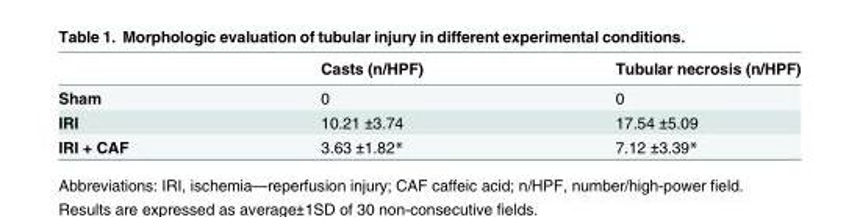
<table><thead><tr><td></td><td>Casts (n/HPF)</td><td>Tubular necrosis (n/HPF)</td></tr></thead><tbody><tr><td>Sham</td><td>0</td><td>0</td></tr><tr><td>IRI</td><td>10.21 ±3.74</td><td>17.54 ±5.09</td></tr><tr><td>IRI + CAF</td><td>3.63 ±1.82*</td><td>7.12 ±3.39*</td></tr></tbody></table>